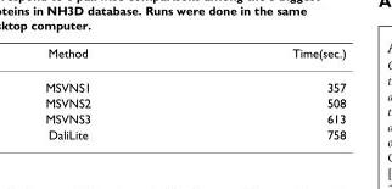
<table><thead><tr><td>Method</td><td>Time(sec.)</td></tr></thead><tbody><tr><td>MSVNS1</td><td>357</td></tr><tr><td>MSVNS2</td><td>508</td></tr><tr><td>MSVNS3</td><td>613</td></tr><tr><td>DaliLite</td><td>758</td></tr></tbody></table>